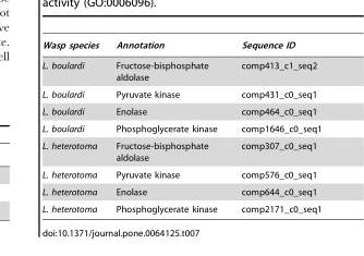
<table><thead><tr><td>Wasp species</td><td>Annotation</td><td>Sequence ID</td></tr></thead><tbody><tr><td>L. boulardi</td><td>Fructose-bisphosphate aldolase</td><td>comp413_c1_seq2</td></tr><tr><td>L. boulardi</td><td>Pyruvate kinase</td><td>comp431_c0_seq1</td></tr><tr><td>L. boulardi</td><td>Enolase</td><td>comp464_c0_seq1</td></tr><tr><td>L. boulardi</td><td>Phosphoglycerate kinase</td><td>comp1646_c0_seq1</td></tr><tr><td>L. heterotoma</td><td>Fructose-bisphosphate aldolase</td><td>comp307_c0_seq1</td></tr><tr><td>L. heterotoma</td><td>Pyruvate kinase</td><td>comp576_c0_seq1</td></tr><tr><td>L. heterotoma</td><td>Enolase</td><td>comp644_c0_seq1</td></tr><tr><td>L. heterotoma</td><td>Phosphoglycerate kinase</td><td>comp2171_c0_seq1</td></tr></tbody></table>